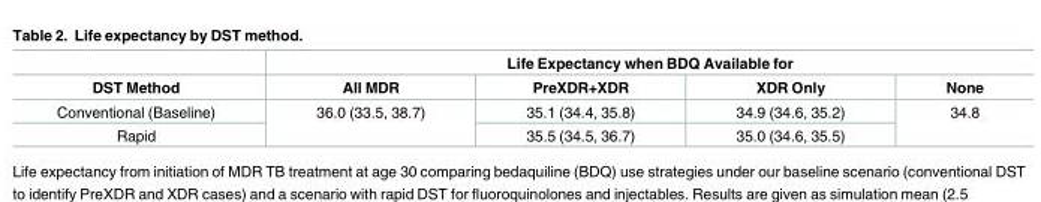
<table><thead><tr><td rowspan="2">DST Method</td><td colspan="4">Life Expectancy when BDQ Available for</td></tr><tr><td>All MDR</td><td>PreXDR+XDR</td><td>XDR Only</td><td>None</td></tr></thead><tbody><tr><td>Conventional (Baseline)</td><td rowspan="2">36.0 (33.5, 38.7)</td><td>35.1 (34.4, 35.8)</td><td>34.9 (34.6, 35.2)</td><td rowspan="2">34.8</td></tr><tr><td>Rapid</td><td>35.5 (34.5, 36.7)</td><td>35.0 (34.6, 35.5)</td></tr></tbody></table>